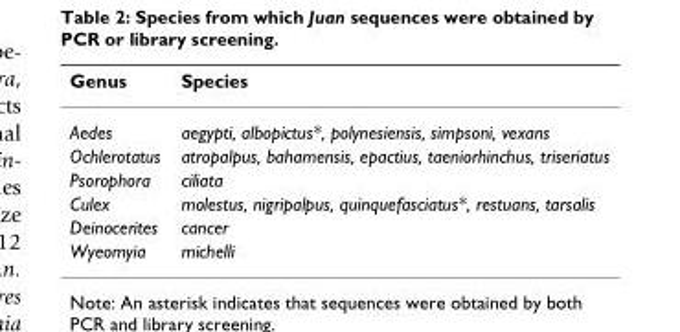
<table><thead><tr><td>Genus</td><td>Species</td></tr></thead><tbody><tr><td>Aedes</td><td>aegypti, albopictus*, polynesiensis, simpsoni, vexans</td></tr><tr><td>Ochlerotatus</td><td>atropalpus, bahamensis, epactius, taeniorhinchus, triseriatus</td></tr><tr><td>Psorophora</td><td>ciliata</td></tr><tr><td>Culex</td><td>molestus, nigripalpus, quinquefasciatus*, restuans, tarsalis</td></tr><tr><td>Deinocerites</td><td>cancer</td></tr><tr><td>Wyeomyia</td><td>michelli</td></tr></tbody></table>